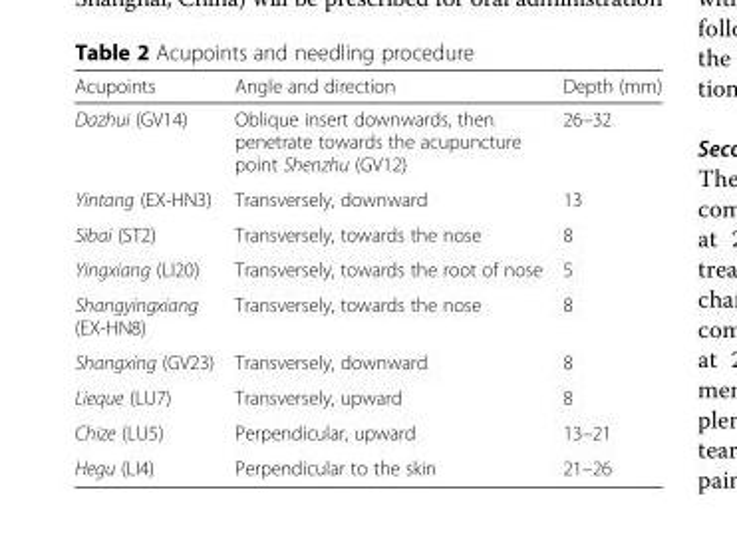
<table><thead><tr><td>Acupoints</td><td>Angle and direction</td><td>Depth (mm)</td></tr></thead><tbody><tr><td>Dazhui (GV14)</td><td>Oblique insert downwards, then penetrate towards the acupuncture point Shenzhu (GV12)</td><td>26–32</td></tr><tr><td>Yintang (EX-HN3)</td><td>Transversely, downward</td><td>13</td></tr><tr><td>Sibai (ST2)</td><td>Transversely, towards the nose</td><td>8</td></tr><tr><td>Yingxiang (LI20)</td><td>Transversely, towards the root of nose</td><td>5</td></tr><tr><td>Shangyingxiang (EX-HN8)</td><td>Transversely, towards the nose</td><td>8</td></tr><tr><td>Shangxing (GV23)</td><td>Transversely, downward</td><td>8</td></tr><tr><td>Lieque (LU7)</td><td>Transversely, upward</td><td>8</td></tr><tr><td>Chize (LU5)</td><td>Perpendicular, upward</td><td>13–21</td></tr><tr><td>Hegu (LI4)</td><td>Perpendicular to the skin</td><td>21–26</td></tr></tbody></table>